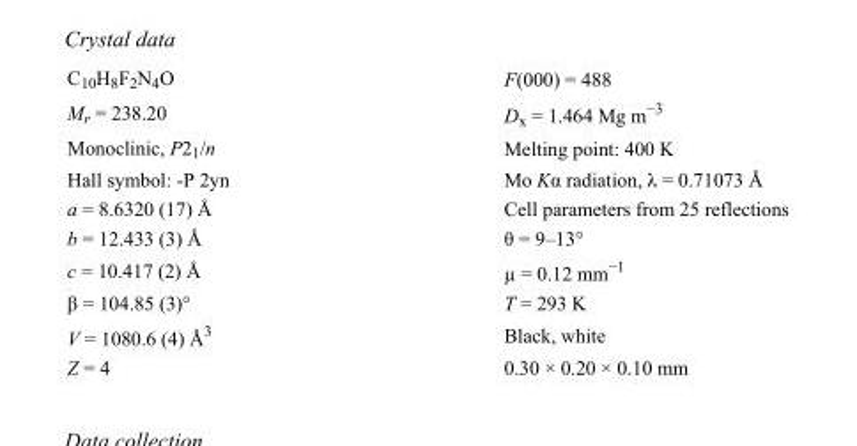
<table><tbody><tr><td>C<sub>10</sub>H<sub>8</sub>F<sub>2</sub>N<sub>4</sub>O</td><td>F(000) = 488</td></tr><tr><td>M<sub>r</sub> = 238.20</td><td>D<sub>x</sub> = 1.464 Mg m<sup>−3</sup></td></tr><tr><td>Monoclinic, P2<sub>1</sub>/n</td><td>Melting point: 400 K</td></tr><tr><td>Hall symbol: -P 2yn</td><td>Mo Kα radiation, λ = 0.71073 Å</td></tr><tr><td>a = 8.6320 (17) Å</td><td>Cell parameters from 25 reflections</td></tr><tr><td>b = 12.433 (3) Å</td><td>θ = 9–13°</td></tr><tr><td>c = 10.417 (2) Å</td><td>µ = 0.12 mm<sup>−1</sup></td></tr><tr><td>β = 104.85 (3)°</td><td>T = 293 K</td></tr><tr><td>V = 1080.6 (4) Å<sup>3</sup></td><td>Black, white</td></tr><tr><td>Z = 4</td><td>0.30 × 0.20 × 0.10 mm</td></tr></tbody></table>